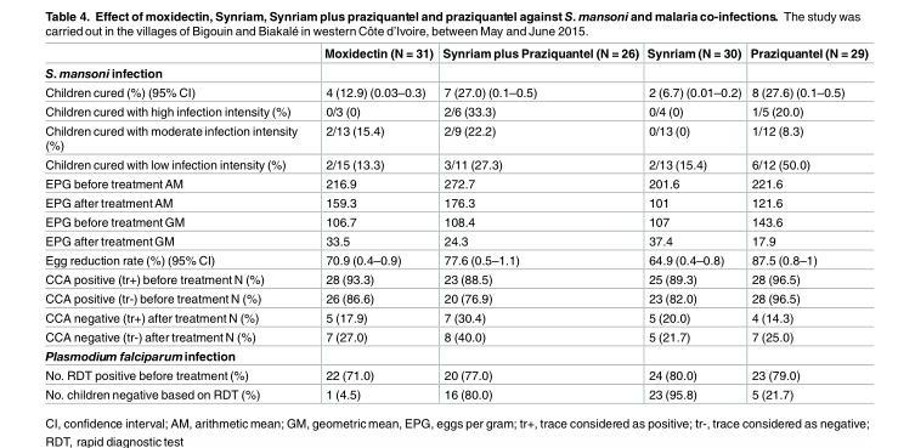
<table><thead><tr><td></td><td>Moxidectin (N = 31)</td><td>Synriam plus Praziquantel (N = 26)</td><td>Synriam (N = 30)</td><td>Praziquantel (N = 29)</td></tr></thead><tbody><tr><td colspan="5">S. mansoni infection</td></tr><tr><td>Children cured (%) (95% CI)</td><td>4 (12.9) (0.03–0.3)</td><td>7 (27.0) (0.1–0.5)</td><td>2 (6.7) (0.01–0.2)</td><td>8 (27.6) (0.1–0.5)</td></tr><tr><td>Children cured with high infection intensity (%)</td><td>0/3 (0)</td><td>2/6 (33.3)</td><td>0/4 (0)</td><td>1/5 (20.0)</td></tr><tr><td>Children cured with moderate infection intensity (%)</td><td>2/13 (15.4)</td><td>2/9 (22.2)</td><td>0/13 (0)</td><td>1/12 (8.3)</td></tr><tr><td>Children cured with low infection intensity (%)</td><td>2/15 (13.3)</td><td>3/11 (27.3)</td><td>2/13 (15.4)</td><td>6/12 (50.0)</td></tr><tr><td>EPG before treatment AM</td><td>216.9</td><td>272.7</td><td>201.6</td><td>221.6</td></tr><tr><td>EPG after treatment AM</td><td>159.3</td><td>176.3</td><td>101</td><td>121.6</td></tr><tr><td>EPG before treatment GM</td><td>106.7</td><td>108.4</td><td>107</td><td>143.6</td></tr><tr><td>EPG after treatment GM</td><td>33.5</td><td>24.3</td><td>37.4</td><td>17.9</td></tr><tr><td>Egg reduction rate (%) (95% CI)</td><td>70.9 (0.4–0.9)</td><td>77.6 (0.5–1.1)</td><td>64.9 (0.4–0.8)</td><td>87.5 (0.8–1)</td></tr><tr><td>CCA positive (tr+) before treatment N (%)</td><td>28 (93.3)</td><td>23 (88.5)</td><td>25 (89.3)</td><td>28 (96.5)</td></tr><tr><td>CCA positive (tr-) before treatment N (%)</td><td>26 (86.6)</td><td>20 (76.9)</td><td>23 (82.0)</td><td>28 (96.5)</td></tr><tr><td>CCA negative (tr+) after treatment N (%)</td><td>5 (17.9)</td><td>7 (30.4)</td><td>5 (20.0)</td><td>4 (14.3)</td></tr><tr><td>CCA negative (tr-) after treatment N (%)</td><td>7 (27.0)</td><td>8 (40.0)</td><td>5 (21.7)</td><td>7 (25.0)</td></tr><tr><td colspan="5">Plasmodium falciparuminfection</td></tr><tr><td>No. RDT positive before treatment (%)</td><td>22 (71.0)</td><td>20 (77.0)</td><td>24 (80.0)</td><td>23 (79.0)</td></tr><tr><td>No. children negative based on RDT (%)</td><td>1 (4.5)</td><td>16 (80.0)</td><td>23 (95.8)</td><td>5 (21.7)</td></tr></tbody></table>